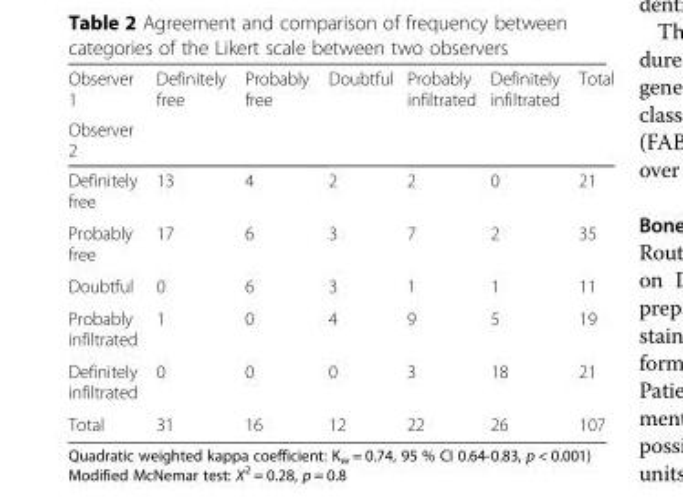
<table><thead><tr><td rowspan="2">Observer 1 Observer 2</td><td rowspan="2">Definitely free</td><td rowspan="2">Probably free</td><td rowspan="2">Doubtful</td><td rowspan="2">Probably infiltrated</td><td rowspan="2">Definitely infiltrated</td><td rowspan="2">Total</td></tr><tr></tr></thead><tbody><tr><td>Definitely free</td><td>13</td><td>4</td><td>2</td><td>2</td><td>0</td><td>21</td></tr><tr><td>Probably free</td><td>17</td><td>6</td><td>3</td><td>7</td><td>2</td><td>35</td></tr><tr><td>Doubtful</td><td>0</td><td>6</td><td>3</td><td>1</td><td>1</td><td>11</td></tr><tr><td>Probably infiltrated</td><td>1</td><td>0</td><td>4</td><td>9</td><td>5</td><td>19</td></tr><tr><td>Definitely infiltrated</td><td>0</td><td>0</td><td>0</td><td>3</td><td>18</td><td>21</td></tr><tr><td>Total</td><td>31</td><td>16</td><td>12</td><td>22</td><td>26</td><td>107</td></tr></tbody></table>